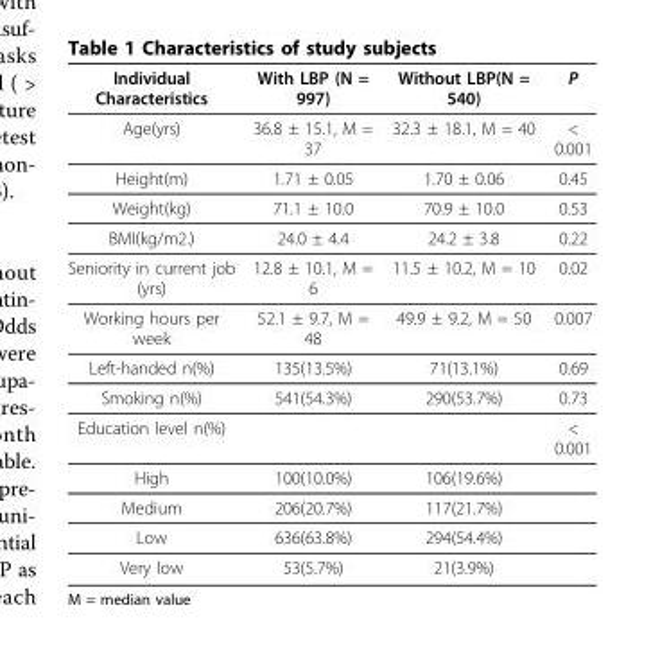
<table><thead><tr><td>Individual Characteristics</td><td>With LBP (N = 997)</td><td>Without LBP(N = 540)</td><td>P</td></tr></thead><tbody><tr><td>Age(yrs)</td><td>36.8 ± 15.1, M = 37</td><td>32.3 ± 18.1, M = 40</td><td>&lt; 0.001</td></tr><tr><td>Height(m)</td><td>1.71 ± 0.05</td><td>1.70 ± 0.06</td><td>0.45</td></tr><tr><td>Weight(kg)</td><td>71.1 ± 10.0</td><td>70.9 ± 10.0</td><td>0.53</td></tr><tr><td>BMI(kg/m2.)</td><td>24.0 ± 4.4</td><td>24.2 ± 3.8</td><td>0.22</td></tr><tr><td>Seniority in current job (yrs)</td><td>12.8 ± 10.1, M = 6</td><td>11.5 ± 10.2, M = 10</td><td>0.02</td></tr><tr><td>Working hours per week</td><td>52.1 ± 9.7, M = 48</td><td>49.9 ± 9.2, M = 50</td><td>0.007</td></tr><tr><td>Left-handed n(%)</td><td>135(13.5%)</td><td>71(13.1%)</td><td>0.69</td></tr><tr><td>Smoking n(%)</td><td>541(54.3%)</td><td>290(53.7%)</td><td>0.73</td></tr><tr><td>Education level n(%)</td><td></td><td></td><td>&lt; 0.001</td></tr><tr><td>High</td><td>100(10.0%)</td><td>106(19.6%)</td><td></td></tr><tr><td>Medium</td><td>206(20.7%)</td><td>117(21.7%)</td><td></td></tr><tr><td>Low</td><td>636(63.8%)</td><td>294(54.4%)</td><td></td></tr><tr><td>Very low</td><td>53(5.7%)</td><td>21(3.9%)</td><td></td></tr></tbody></table>